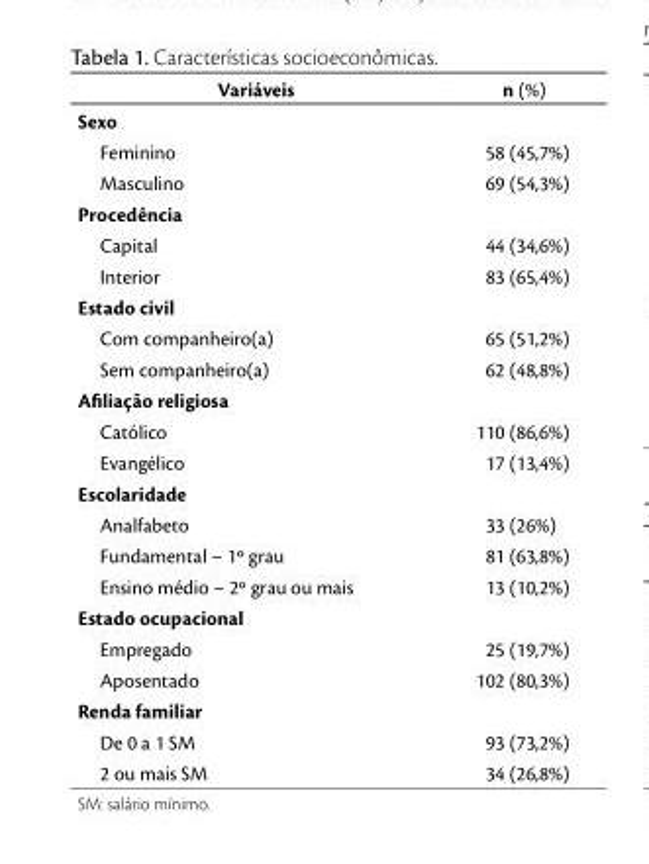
<table><thead><tr><td>Variáveis</td><td>n (%)</td></tr></thead><tbody><tr><td colspan="2">Sexo</td></tr><tr><td>Feminino</td><td>58 (45,7%)</td></tr><tr><td>Masculino</td><td>69 (54,3%)</td></tr><tr><td colspan="2">Procedência</td></tr><tr><td>Capital</td><td>44 (34,6%)</td></tr><tr><td>Interior</td><td>83 (65,4%)</td></tr><tr><td colspan="2">Estado civil</td></tr><tr><td>Com companheiro(a)</td><td>65 (51,2%)</td></tr><tr><td>Sem companheiro(a)</td><td>62 (48,8%)</td></tr><tr><td colspan="2">Afiliação religiosa</td></tr><tr><td>Católico</td><td>110 (86,6%)</td></tr><tr><td>Evangélico</td><td>17 (13,4%)</td></tr><tr><td colspan="2">Escolaridade</td></tr><tr><td>Analfabeto</td><td>33 (26%)</td></tr><tr><td>Fundamental – 1º grau</td><td>81 (63,8%)</td></tr><tr><td>Ensino médio – 2º grau ou mais</td><td>13 (10,2%)</td></tr><tr><td colspan="2">Estado ocupacional</td></tr><tr><td>Empregado</td><td>25 (19,7%)</td></tr><tr><td>Aposentado</td><td>102 (80,3%)</td></tr><tr><td colspan="2">Renda familiar</td></tr><tr><td>De 0 a 1 SM</td><td>93 (73,2%)</td></tr><tr><td>2 ou mais SM</td><td>34 (26,8%)</td></tr></tbody></table>